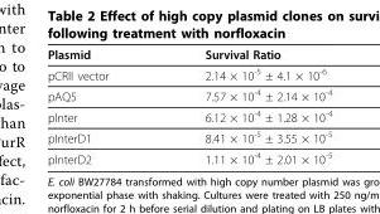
<table><thead><tr><td>Plasmid</td><td>Survival Ratio</td></tr></thead><tbody><tr><td>pCRII vector</td><td>2.14 × 10<sup>-5</sup> ± 4.1 × 10<sup>-6</sup></td></tr><tr><td>pAQ5</td><td>7.57 × 10<sup>-4</sup> ± 2.14 × 10<sup>-4</sup></td></tr><tr><td>pInter</td><td>6.12 × 10<sup>-4</sup> ± 1.28 × 10<sup>-4</sup></td></tr><tr><td>pInterD1</td><td>8.41 × 10<sup>-5</sup> ± 3.55 × 10<sup>-5</sup></td></tr><tr><td>pInterD2</td><td>1.11 × 10<sup>-4</sup> ± 2.01 × 10<sup>-5</sup></td></tr></tbody></table>